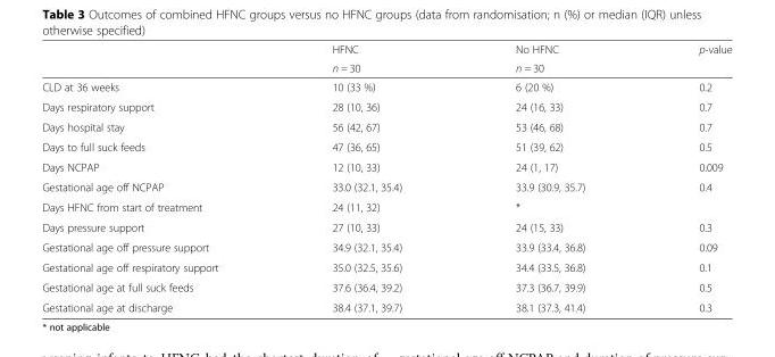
<table><thead><tr><td rowspan="2"></td><td rowspan="2">HFNC n = 30</td><td rowspan="2">No HFNC n = 30</td><td rowspan="2">p-value</td></tr><tr></tr></thead><tbody><tr><td>CLD at 36 weeks</td><td>10 (33 %)</td><td>6 (20 %)</td><td>0.2</td></tr><tr><td>Days respiratory support</td><td>28 (10, 36)</td><td>24 (16, 33)</td><td>0.7</td></tr><tr><td>Days hospital stay</td><td>56 (42, 67)</td><td>53 (46, 68)</td><td>0.7</td></tr><tr><td>Days to full suck feeds</td><td>47 (36, 65)</td><td>51 (39, 62)</td><td>0.5</td></tr><tr><td>Days NCPAP</td><td>12 (10, 33)</td><td>24 (1, 17)</td><td>0.009</td></tr><tr><td>Gestational age off NCPAP</td><td>33.0 (32.1, 35.4)</td><td>33.9 (30.9, 35.7)</td><td>0.4</td></tr><tr><td>Days HFNC from start of treatment</td><td>24 (11, 32)</td><td>*</td><td></td></tr><tr><td>Days pressure support</td><td>27 (10, 33)</td><td>24 (15, 33)</td><td>0.3</td></tr><tr><td>Gestational age off pressure support</td><td>34.9 (32.1, 35.4)</td><td>33.9 (33.4, 36.8)</td><td>0.09</td></tr><tr><td>Gestational age off respiratory support</td><td>35.0 (32.5, 35.6)</td><td>34.4 (33.5, 36.8)</td><td>0.1</td></tr><tr><td>Gestational age at full suck feeds</td><td>37.6 (36.4, 39.2)</td><td>37.3 (36.7, 39.9)</td><td>0.5</td></tr><tr><td>Gestational age at discharge</td><td>38.4 (37.1, 39.7)</td><td>38.1 (37.3, 41.4)</td><td>0.3</td></tr></tbody></table>